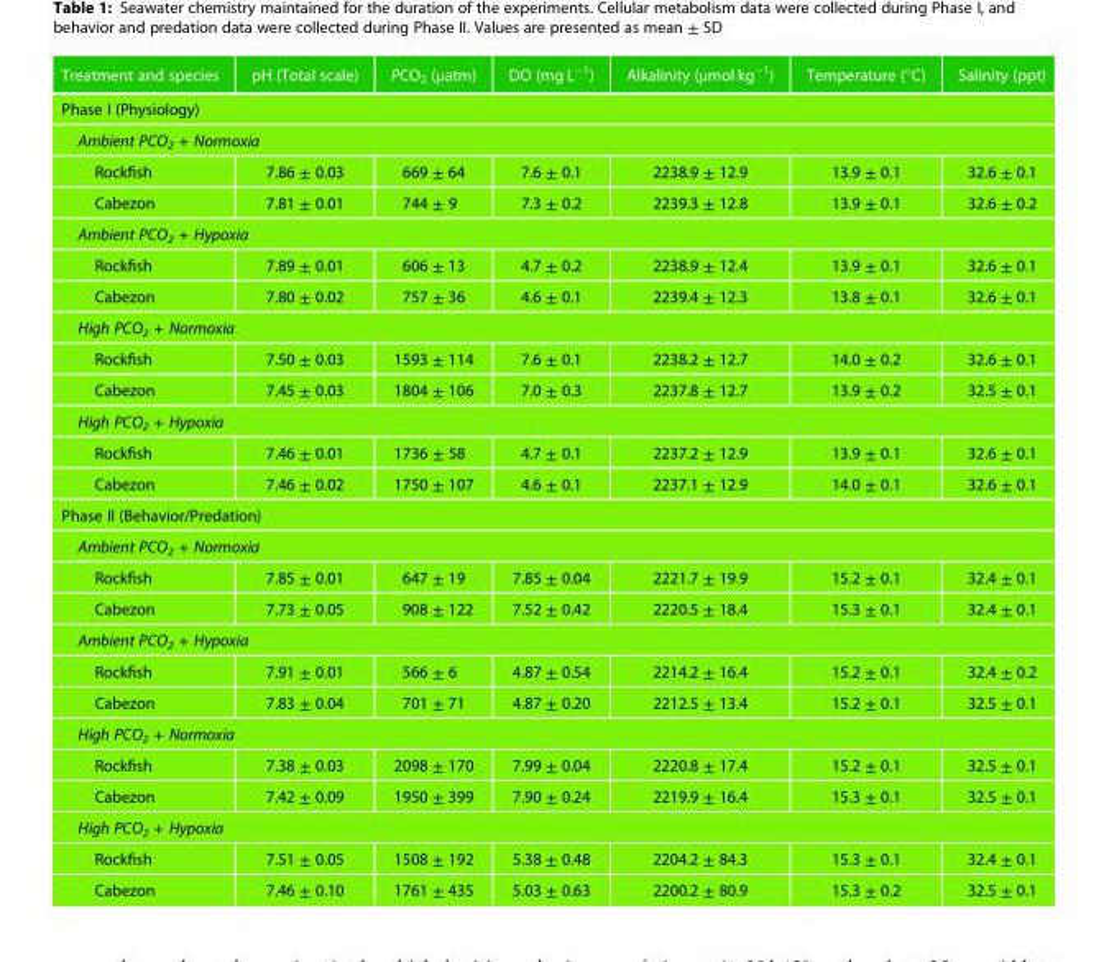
<table><thead><tr><td>Treatment and species</td><td>pH (Total scale)</td><td>PCO<sub>2</sub> (μatm)</td><td>DO (mg L<sup>−1</sup>)</td><td>Alkalinity (μmol kg<sup>−1</sup>)</td><td>Temperature (°C)</td><td>Salinity (ppt)</td></tr></thead><tbody><tr><td colspan="7">Phase I (Physiology)</td></tr><tr><td colspan="7">Ambient PCO<sub>2</sub> + Normoxia</td></tr><tr><td>Rockfish</td><td>7.86 ± 0.03</td><td>669 ± 64</td><td>7.6 ± 0.1</td><td>2238.9 ± 12.9</td><td>13.9 ± 0.1</td><td>32.6 ± 0.1</td></tr><tr><td>Cabezon</td><td>7.81 ± 0.01</td><td>744 ± 9</td><td>7.3 ± 0.2</td><td>2239.3 ± 12.8</td><td>13.9 ± 0.1</td><td>32.6 ± 0.2</td></tr><tr><td colspan="7">Ambient PCO<sub>2</sub> + Hypoxia</td></tr><tr><td>Rockfish</td><td>7.89 ± 0.01</td><td>606 ± 13</td><td>4.7 ± 0.2</td><td>2238.9 ± 12.4</td><td>13.9 ± 0.1</td><td>32.6 ± 0.1</td></tr><tr><td>Cabezon</td><td>7.80 ± 0.02</td><td>757 ± 36</td><td>4.6 ± 0.1</td><td>2239.4 ± 12.3</td><td>13.8 ± 0.1</td><td>32.6 ± 0.1</td></tr><tr><td colspan="7">High PCO<sub>2</sub> + Normoxia</td></tr><tr><td>Rockfish</td><td>7.50 ± 0.03</td><td>1593 ± 114</td><td>7.6 ± 0.1</td><td>2238.2 ± 12.7</td><td>14.0 ± 0.2</td><td>32.6 ± 0.1</td></tr><tr><td>Cabezon</td><td>7.45 ± 0.03</td><td>1804 ± 106</td><td>7.0 ± 0.3</td><td>2237.8 ± 12.7</td><td>13.9 ± 0.2</td><td>32.5 ± 0.1</td></tr><tr><td colspan="7">High PCO<sub>2</sub> + Hypoxia</td></tr><tr><td>Rockfish</td><td>7.46 ± 0.01</td><td>1736 ± 58</td><td>4.7 ± 0.1</td><td>2237.2 ± 12.9</td><td>13.9 ± 0.1</td><td>32.6 ± 0.1</td></tr><tr><td>Cabezon</td><td>7.46 ± 0.02</td><td>1750 ± 107</td><td>4.6 ± 0.1</td><td>2237.1 ± 12.9</td><td>14.0 ± 0.1</td><td>32.6 ± 0.1</td></tr><tr><td colspan="7">Phase II (Behavior/Predation)</td></tr><tr><td colspan="7">Ambient PCO<sub>2</sub> + Normoxia</td></tr><tr><td>Rockfish</td><td>7.85 ± 0.01</td><td>647 ± 19</td><td>7.85 ± 0.04</td><td>2221.7 ± 19.9</td><td>15.2 ± 0.1</td><td>32.4 ± 0.1</td></tr><tr><td>Cabezon</td><td>7.73 ± 0.05</td><td>908 ± 122</td><td>7.52 ± 0.42</td><td>2220.5 ± 18.4</td><td>15.3 ± 0.1</td><td>32.4 ± 0.1</td></tr><tr><td colspan="7">Ambient PCO<sub>2</sub> + Hypoxia</td></tr><tr><td>Rockfish</td><td>7.91 ± 0.01</td><td>566 ± 6</td><td>4.87 ± 0.54</td><td>2214.2 ± 16.4</td><td>15.2 ± 0.1</td><td>32.4 ± 0.2</td></tr><tr><td>Cabezon</td><td>7.83 ± 0.04</td><td>701 ± 71</td><td>4.87 ± 0.20</td><td>2212.5 ± 13.4</td><td>15.2 ± 0.1</td><td>32.5 ± 0.1</td></tr><tr><td colspan="7">High PCO<sub>2</sub> + Normoxia</td></tr><tr><td>Rockfish</td><td>7.38 ± 0.03</td><td>2098 ± 170</td><td>7.99 ± 0.04</td><td>2220.8 ± 17.4</td><td>15.2 ± 0.1</td><td>32.5 ± 0.1</td></tr><tr><td>Cabezon</td><td>7.42 ± 0.09</td><td>1950 ± 399</td><td>7.90 ± 0.24</td><td>2219.9 ± 16.4</td><td>15.3 ± 0.1</td><td>32.5 ± 0.1</td></tr><tr><td colspan="7">High PCO<sub>2</sub> + Hypoxia</td></tr><tr><td>Rockfish</td><td>7.51 ± 0.05</td><td>1508 ± 192</td><td>5.38 ± 0.48</td><td>2204.2 ± 84.3</td><td>15.3 ± 0.1</td><td>32.4 ± 0.1</td></tr><tr><td>Cabezon</td><td>7.46 ± 0.10</td><td>1761 ± 435</td><td>5.03 ± 0.63</td><td>2200.2 ± 80.9</td><td>15.3 ± 0.2</td><td>32.5 ± 0.1</td></tr></tbody></table>